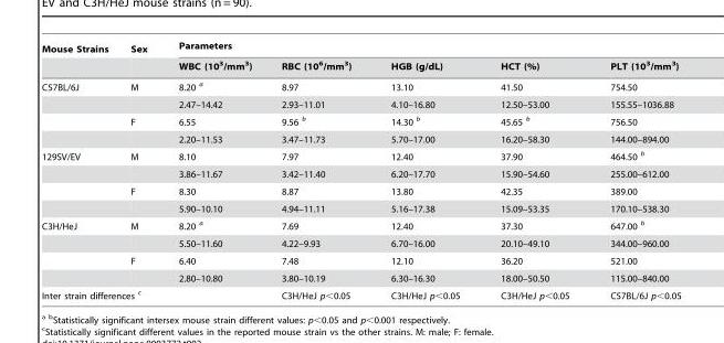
<table><thead><tr><td rowspan="2">Mouse Strains</td><td rowspan="2">Sex</td><td colspan="5">Parameters</td></tr><tr><td>WBC (10<sup>3</sup>/mm<sup>3</sup>)</td><td>RBC (10<sup>6</sup>/mm<sup>3</sup>)</td><td>HGB (g/dL)</td><td>HCT (%)</td><td>PLT (10<sup>3</sup>/mm<sup>3</sup>)</td></tr></thead><tbody><tr><td rowspan="4">C57BL/6J</td><td>M</td><td>8.20 a</td><td>8.97</td><td>13.10</td><td>41.50</td><td>754.50</td></tr><tr><td></td><td>2.47–14.42</td><td>2.93–11.01</td><td>4.10–16.80</td><td>12.50–53.00</td><td>155.55–1036.88</td></tr><tr><td>F</td><td>6.55</td><td>9.56 b</td><td>14.30 b</td><td>45.65 b</td><td>756.50</td></tr><tr><td></td><td>2.20–11.53</td><td>3.47–11.73</td><td>5.70–17.00</td><td>16.20–58.30</td><td>144.00–894.00</td></tr><tr><td rowspan="4">129SV/EV</td><td>M</td><td>8.10</td><td>7.97</td><td>12.40</td><td>37.90</td><td>464.50 b</td></tr><tr><td></td><td>3.86–11.67</td><td>3.42–11.40</td><td>6.20–17.70</td><td>15.90–54.60</td><td>255.00–612.00</td></tr><tr><td>F</td><td>8.30</td><td>8.87</td><td>13.80</td><td>42.35</td><td>389.00</td></tr><tr><td></td><td>5.90–10.10</td><td>4.94–11.11</td><td>5.16–17.38</td><td>15.09–53.35</td><td>170.10–538.30</td></tr><tr><td rowspan="4">C3H/HeJ</td><td>M</td><td>8.20 a</td><td>7.69</td><td>12.40</td><td>37.30</td><td>647.00 b</td></tr><tr><td></td><td>5.50–11.60</td><td>4.22–9.93</td><td>6.70–16.00</td><td>20.10–49.10</td><td>344.00–960.00</td></tr><tr><td>F</td><td>6.40</td><td>7.48</td><td>12.10</td><td>36.20</td><td>521.00</td></tr><tr><td></td><td>2.80–10.80</td><td>3.80–10.19</td><td>6.30–16.30</td><td>18.00–50.50</td><td>115.00–840.00</td></tr><tr><td colspan="2">Inter strain differences c</td><td></td><td>C3H/HeJ p&lt;0.05</td><td>C3H/HeJ p&lt;0.05</td><td>C3H/HeJ p&lt;0.05</td><td>C57BL/6J p&lt;0.05</td></tr></tbody></table>